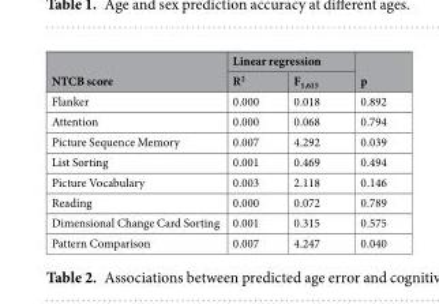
<table><thead><tr><td rowspan="2">NTCB score</td><td colspan="2">Linear regression</td><td rowspan="2">p</td></tr><tr><td>R<sup>2</sup></td><td>F<sub>1,615</sub></td></tr></thead><tbody><tr><td>Flanker</td><td>0.000</td><td>0.018</td><td>0.892</td></tr><tr><td>Attention</td><td>0.000</td><td>0.068</td><td>0.794</td></tr><tr><td>Picture Sequence Memory</td><td>0.007</td><td>4.292</td><td>0.039</td></tr><tr><td>List Sorting</td><td>0.001</td><td>0.469</td><td>0.494</td></tr><tr><td>Picture Vocabulary</td><td>0.003</td><td>2.118</td><td>0.146</td></tr><tr><td>Reading</td><td>0.000</td><td>0.072</td><td>0.789</td></tr><tr><td>Dimensional Change Card Sorting</td><td>0.001</td><td>0.315</td><td>0.575</td></tr><tr><td>Pattern Comparison</td><td>0.007</td><td>4.247</td><td>0.040</td></tr></tbody></table>